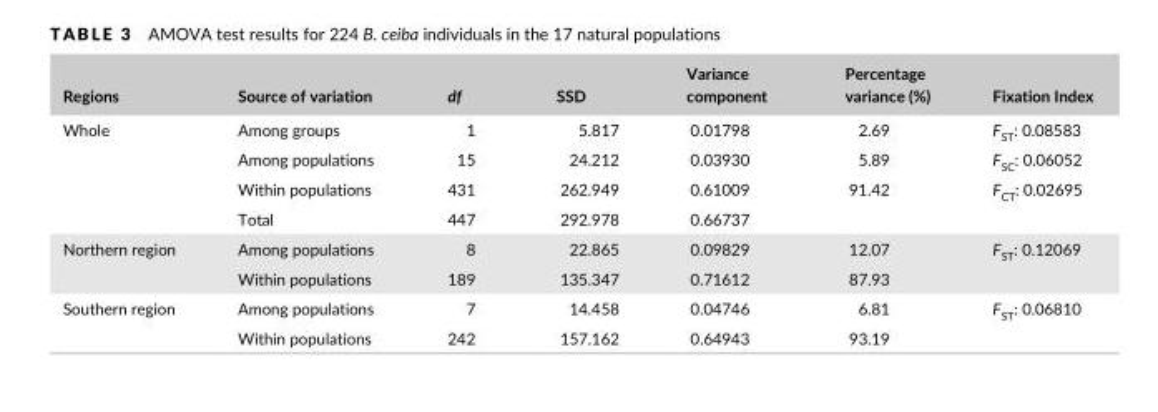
<table><thead><tr><td>Regions</td><td>Source of variation</td><td>df</td><td>SSD</td><td>Variance component</td><td>Percentage variance (%)</td><td>Fixation Index</td></tr></thead><tbody><tr><td rowspan="4">Whole</td><td>Among groups</td><td>1</td><td>5.817</td><td>0.01798</td><td>2.69</td><td>F<sub>ST</sub>: 0.08583</td></tr><tr><td>Among populations</td><td>15</td><td>24.212</td><td>0.03930</td><td>5.89</td><td>F<sub>SC</sub>: 0.06052</td></tr><tr><td>Within populations</td><td>431</td><td>262.949</td><td>0.61009</td><td>91.42</td><td>F<sub>CT</sub>: 0.02695</td></tr><tr><td>Total</td><td>447</td><td>292.978</td><td>0.66737</td><td></td><td></td></tr><tr><td rowspan="2">Northern region</td><td>Among populations</td><td>8</td><td>22.865</td><td>0.09829</td><td>12.07</td><td rowspan="2">F<sub>ST</sub>: 0.12069</td></tr><tr><td>Within populations</td><td>189</td><td>135.347</td><td>0.71612</td><td>87.93</td></tr><tr><td rowspan="2">Southern region</td><td>Among populations</td><td>7</td><td>14.458</td><td>0.04746</td><td>6.81</td><td rowspan="2">F<sub>ST</sub>: 0.06810</td></tr><tr><td>Within populations</td><td>242</td><td>157.162</td><td>0.64943</td><td>93.19</td></tr></tbody></table>